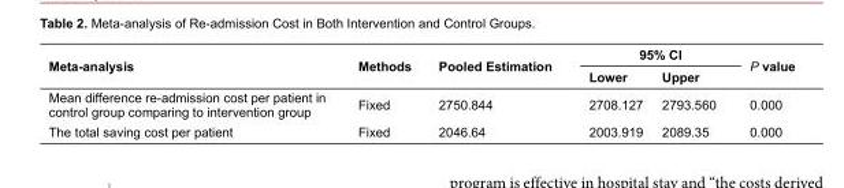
<table><tbody><tr><td rowspan="2">Meta-analysis</td><td rowspan="2">Methods</td><td rowspan="2">Pooled Estimation</td><td colspan="2">95% CI</td><td rowspan="2">P value</td></tr><tr><td>Lower</td><td>Upper</td></tr><tr><td>Mean difference re-admission cost per patient in control group comparing to intervention group</td><td>Fixed</td><td>2750.844</td><td>2708.127</td><td>2793.560</td><td>0.000</td></tr><tr><td>The total saving cost per patient</td><td>Fixed</td><td>2046.64</td><td>2003.919</td><td>2089.35</td><td>0.000</td></tr></tbody></table>